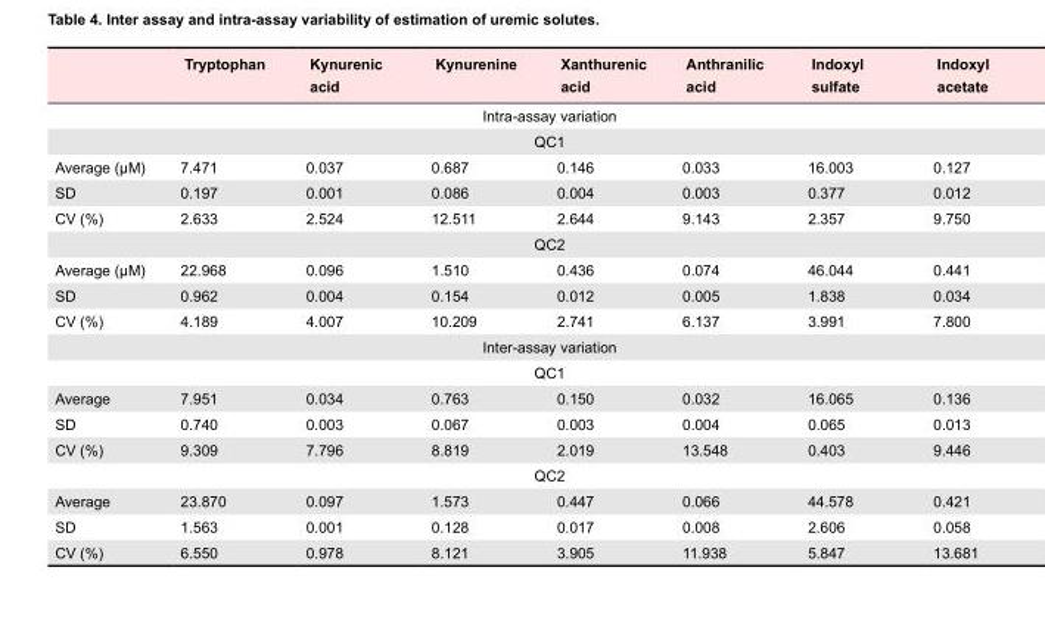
<table><thead><tr><td></td><td>Tryptophan</td><td>Kynurenic acid</td><td>Kynurenine</td><td>Xanthurenic acid</td><td>Anthranilic acid</td><td>Indoxyl sulfate</td><td>Indoxyl acetate</td></tr></thead><tbody><tr><td colspan="8">Intra-assay variation</td></tr><tr><td colspan="8">QC1</td></tr><tr><td>Average (µM)</td><td>7.471</td><td>0.037</td><td>0.687</td><td>0.146</td><td>0.033</td><td>16.003</td><td>0.127</td></tr><tr><td>SD</td><td>0.197</td><td>0.001</td><td>0.086</td><td>0.004</td><td>0.003</td><td>0.377</td><td>0.012</td></tr><tr><td>CV (%)</td><td>2.633</td><td>2.524</td><td>12.511</td><td>2.644</td><td>9.143</td><td>2.357</td><td>9.750</td></tr><tr><td colspan="8">QC2</td></tr><tr><td>Average (µM)</td><td>22.968</td><td>0.096</td><td>1.510</td><td>0.436</td><td>0.074</td><td>46.044</td><td>0.441</td></tr><tr><td>SD</td><td>0.962</td><td>0.004</td><td>0.154</td><td>0.012</td><td>0.005</td><td>1.838</td><td>0.034</td></tr><tr><td>CV (%)</td><td>4.189</td><td>4.007</td><td>10.209</td><td>2.741</td><td>6.137</td><td>3.991</td><td>7.800</td></tr><tr><td colspan="8">Inter-assay variation</td></tr><tr><td colspan="8">QC1</td></tr><tr><td>Average</td><td>7.951</td><td>0.034</td><td>0.763</td><td>0.150</td><td>0.032</td><td>16.065</td><td>0.136</td></tr><tr><td>SD</td><td>0.740</td><td>0.003</td><td>0.067</td><td>0.003</td><td>0.004</td><td>0.065</td><td>0.013</td></tr><tr><td>CV (%)</td><td>9.309</td><td>7.796</td><td>8.819</td><td>2.019</td><td>13.548</td><td>0.403</td><td>9.446</td></tr><tr><td colspan="8">QC2</td></tr><tr><td>Average</td><td>23.870</td><td>0.097</td><td>1.573</td><td>0.447</td><td>0.066</td><td>44.578</td><td>0.421</td></tr><tr><td>SD</td><td>1.563</td><td>0.001</td><td>0.128</td><td>0.017</td><td>0.008</td><td>2.606</td><td>0.058</td></tr><tr><td>CV (%)</td><td>6.550</td><td>0.978</td><td>8.121</td><td>3.905</td><td>11.938</td><td>5.847</td><td>13.681</td></tr></tbody></table>